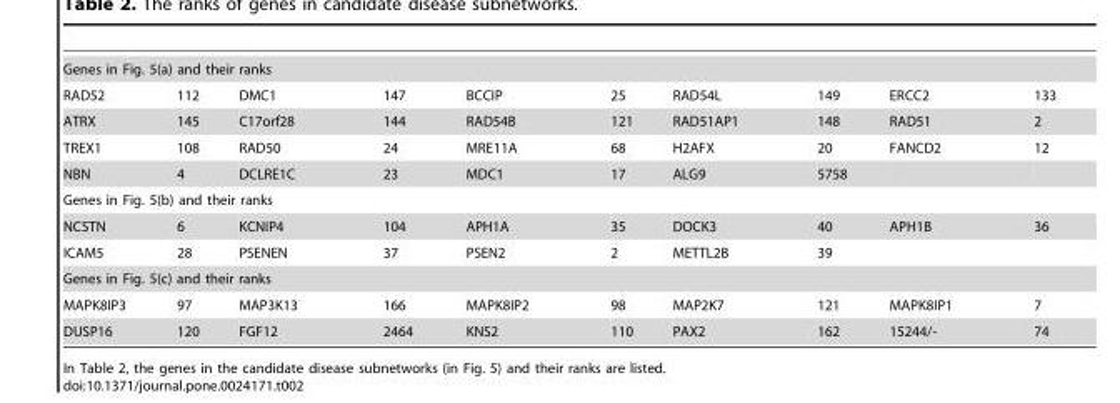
<table><tbody><tr><td colspan="10">Genes in Fig. 5(a) and their ranks</td></tr><tr><td>RAD52</td><td>112</td><td>DMC1</td><td>147</td><td>BCCIP</td><td>25</td><td>RAD54L</td><td>149</td><td>ERCC2</td><td>133</td></tr><tr><td>ATRX</td><td>145</td><td>C17orf28</td><td>144</td><td>RAD54B</td><td>121</td><td>RAD51AP1</td><td>148</td><td>RAD51</td><td>2</td></tr><tr><td>TREX1</td><td>108</td><td>RAD50</td><td>24</td><td>MRE11A</td><td>68</td><td>H2AFX</td><td>20</td><td>FANCD2</td><td>12</td></tr><tr><td>NBN</td><td>4</td><td>DCLRE1C</td><td>23</td><td>MDC1</td><td>17</td><td>ALG9</td><td>5758</td><td></td><td></td></tr><tr><td colspan="10">Genes in Fig. 5(b) and their ranks</td></tr><tr><td>NCSTN</td><td>6</td><td>KCNIP4</td><td>104</td><td>APH1A</td><td>35</td><td>DOCK3</td><td>40</td><td>APH1B</td><td>36</td></tr><tr><td>ICAM5</td><td>28</td><td>PSENEN</td><td>37</td><td>PSEN2</td><td>2</td><td>METTL2B</td><td>39</td><td></td><td></td></tr><tr><td colspan="10">Genes in Fig. 5(c) and their ranks</td></tr><tr><td>MAPK8IP3</td><td>97</td><td>MAP3K13</td><td>166</td><td>MAPK8IP2</td><td>98</td><td>MAP2K7</td><td>121</td><td>MAPK8IP1</td><td>7</td></tr><tr><td>DUSP16</td><td>120</td><td>FGF12</td><td>2464</td><td>KNS2</td><td>110</td><td>PAX2</td><td>162</td><td>15244/-</td><td>74</td></tr></tbody></table>